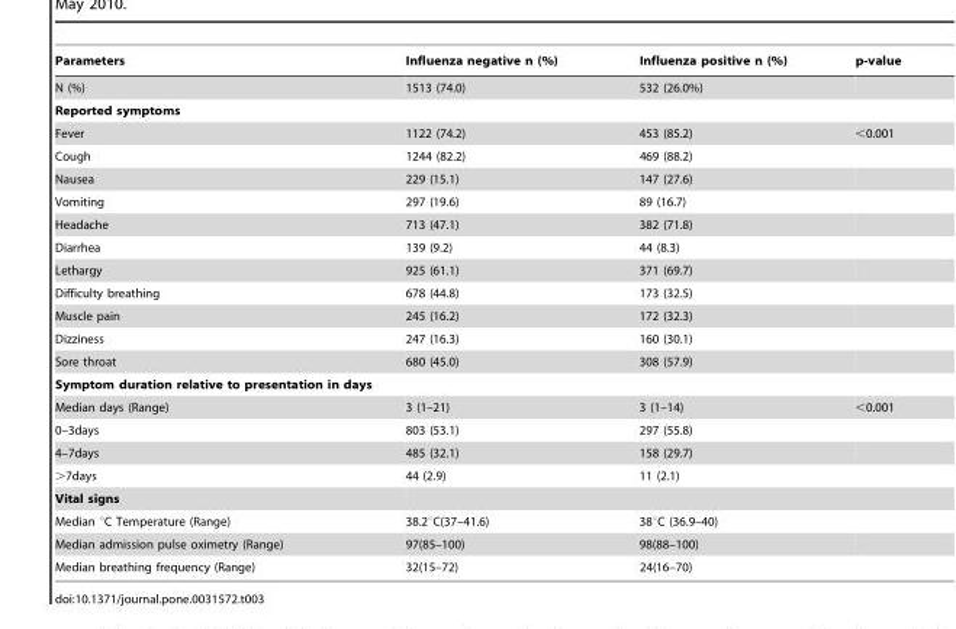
<table><thead><tr><td>Parameters</td><td>Influenza negative n (%)</td><td>Influenza positive n (%)</td><td>p-value</td></tr></thead><tbody><tr><td>N (%)</td><td>1513 (74.0)</td><td>532 (26.0%)</td><td></td></tr><tr><td colspan="4">Reported symptoms</td></tr><tr><td>Fever</td><td>1122 (74.2)</td><td>453 (85.2)</td><td>&lt;0.001</td></tr><tr><td>Cough</td><td>1244 (82.2)</td><td>469 (88.2)</td><td></td></tr><tr><td>Nausea</td><td>229 (15.1)</td><td>147 (27.6)</td><td></td></tr><tr><td>Vomiting</td><td>297 (19.6)</td><td>89 (16.7)</td><td></td></tr><tr><td>Headache</td><td>713 (47.1)</td><td>382 (71.8)</td><td></td></tr><tr><td>Diarrhea</td><td>139 (9.2)</td><td>44 (8.3)</td><td></td></tr><tr><td>Lethargy</td><td>925 (61.1)</td><td>371 (69.7)</td><td></td></tr><tr><td>Difficulty breathing</td><td>678 (44.8)</td><td>173 (32.5)</td><td></td></tr><tr><td>Muscle pain</td><td>245 (16.2)</td><td>172 (32.3)</td><td></td></tr><tr><td>Dizziness</td><td>247 (16.3)</td><td>160 (30.1)</td><td></td></tr><tr><td>Sore throat</td><td>680 (45.0)</td><td>308 (57.9)</td><td></td></tr><tr><td colspan="4">Symptom duration relative to presentation in days</td></tr><tr><td>Median days (Range)</td><td>3 (1–21)</td><td>3 (1–14)</td><td>&lt;0.001</td></tr><tr><td>0–3days</td><td>803 (53.1)</td><td>297 (55.8)</td><td></td></tr><tr><td>4–7days</td><td>485 (32.1)</td><td>158 (29.7)</td><td></td></tr><tr><td>&gt;7days</td><td>44 (2.9)</td><td>11 (2.1)</td><td></td></tr><tr><td colspan="4">Vital signs</td></tr><tr><td>Median °C Temperature (Range)</td><td>38.2°C(37–41.6)</td><td>38°C (36.9–40)</td><td></td></tr><tr><td>Median admission pulse oximetry (Range)</td><td>97(85–100)</td><td>98(88–100)</td><td></td></tr><tr><td>Median breathing frequency (Range)</td><td>32(15–72)</td><td>24(16–70)</td><td></td></tr></tbody></table>